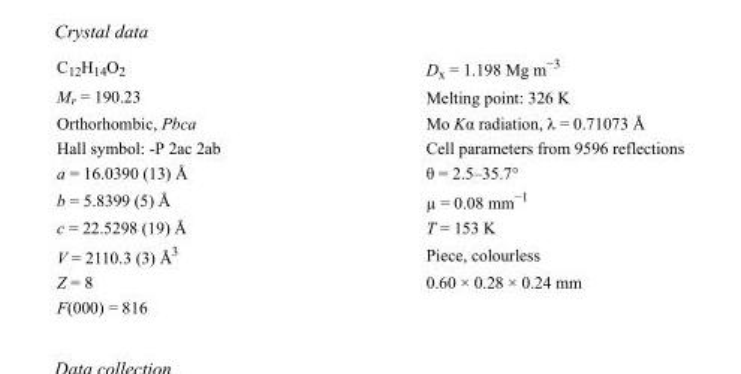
<table><tbody><tr><td>C<sub>12</sub>H<sub>14</sub>O<sub>2</sub></td><td>D<sub>x</sub> = 1.198 Mg m<sup>−3</sup></td></tr><tr><td>M<sub>r</sub> = 190.23</td><td>Melting point: 326 K</td></tr><tr><td>Orthorhombic, Pbca</td><td>Mo Kα radiation, λ = 0.71073 Å</td></tr><tr><td>Hall symbol: -P 2ac 2ab</td><td>Cell parameters from 9596 reflections</td></tr><tr><td>a = 16.0390 (13) Å</td><td>θ = 2.5–35.7°</td></tr><tr><td>b = 5.8399 (5) Å</td><td>µ = 0.08 mm<sup>−1</sup></td></tr><tr><td>c = 22.5298 (19) Å</td><td>T = 153 K</td></tr><tr><td>V = 2110.3 (3) Å<sup>3</sup></td><td>Piece, colourless</td></tr><tr><td>Z = 8</td><td>0.60 × 0.28 × 0.24 mm</td></tr><tr><td>F(000) = 816</td><td></td></tr></tbody></table>